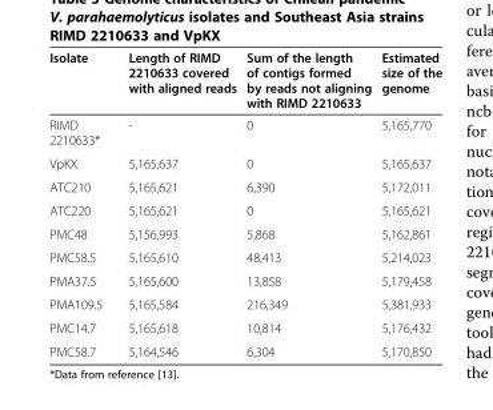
<table><thead><tr><td>Isolate</td><td>Length of RIMD 2210633 covered with aligned reads</td><td>Sum of the length of contigs formed by reads not aligning with RIMD 2210633</td><td>Estimated size of the genome</td></tr></thead><tbody><tr><td>RIMD 2210633*</td><td>-</td><td>0</td><td>5,165,770</td></tr><tr><td>VpKX</td><td>5,165,637</td><td>0</td><td>5,165,637</td></tr><tr><td>ATC210</td><td>5,165,621</td><td>6,390</td><td>5,172,011</td></tr><tr><td>ATC220</td><td>5,165,621</td><td>0</td><td>5,165,621</td></tr><tr><td>PMC48</td><td>5,156,993</td><td>5,868</td><td>5,162,861</td></tr><tr><td>PMC58.5</td><td>5,165,610</td><td>48,413</td><td>5,214,023</td></tr><tr><td>PMA37.5</td><td>5,165,600</td><td>13,858</td><td>5,179,458</td></tr><tr><td>PMA109.5</td><td>5,165,584</td><td>216,349</td><td>5,381,933</td></tr><tr><td>PMC14.7</td><td>5,165,618</td><td>10,814</td><td>5,176,432</td></tr><tr><td>PMC58.7</td><td>5,164,546</td><td>6,304</td><td>5,170,850</td></tr></tbody></table>